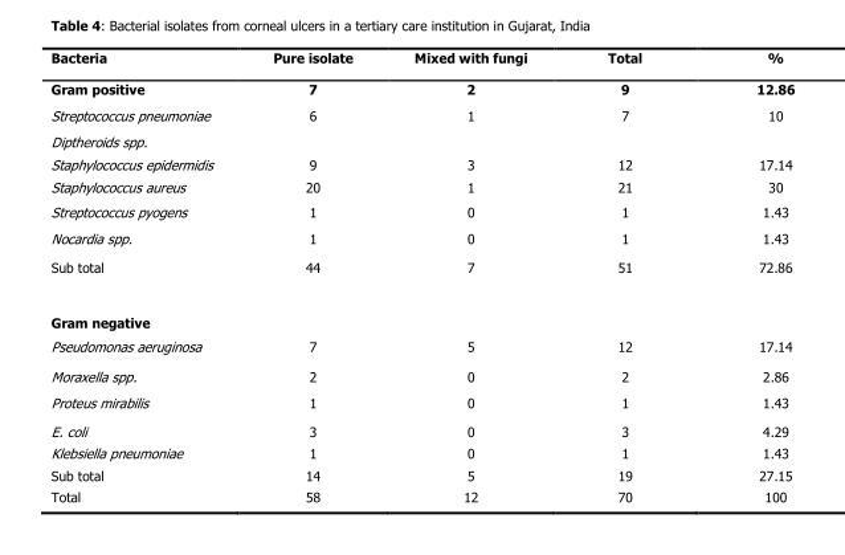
<table><thead><tr><td>Bacteria</td><td>Pure isolate</td><td>Mixed with fungi</td><td>Total</td><td>%</td></tr></thead><tbody><tr><td>Gram positive</td><td>7</td><td>2</td><td>9</td><td>12.86</td></tr><tr><td>Streptococcus pneumoniae</td><td>6</td><td>1</td><td>7</td><td>10</td></tr><tr><td colspan="5">Diptheroids spp.</td></tr><tr><td>Staphylococcus epidermidis</td><td>9</td><td>3</td><td>12</td><td>17.14</td></tr><tr><td>Staphylococcus aureus</td><td>20</td><td>1</td><td>21</td><td>30</td></tr><tr><td>Streptococcus pyogens</td><td>1</td><td>0</td><td>1</td><td>1.43</td></tr><tr><td>Nocardia spp.</td><td>1</td><td>0</td><td>1</td><td>1.43</td></tr><tr><td>Sub total</td><td>44</td><td>7</td><td>51</td><td>72.86</td></tr><tr><td colspan="5">Gram negative</td></tr><tr><td>Pseudomonas aeruginosa</td><td>7</td><td>5</td><td>12</td><td>17.14</td></tr><tr><td>Moraxella spp.</td><td>2</td><td>0</td><td>2</td><td>2.86</td></tr><tr><td>Proteus mirabilis</td><td>1</td><td>0</td><td>1</td><td>1.43</td></tr><tr><td>E. coli</td><td>3</td><td>0</td><td>3</td><td>4.29</td></tr><tr><td>Klebsiella pneumoniae</td><td>1</td><td>0</td><td>1</td><td>1.43</td></tr><tr><td>Sub total</td><td>14</td><td>5</td><td>19</td><td>27.15</td></tr><tr><td>Total</td><td>58</td><td>12</td><td>70</td><td>100</td></tr></tbody></table>